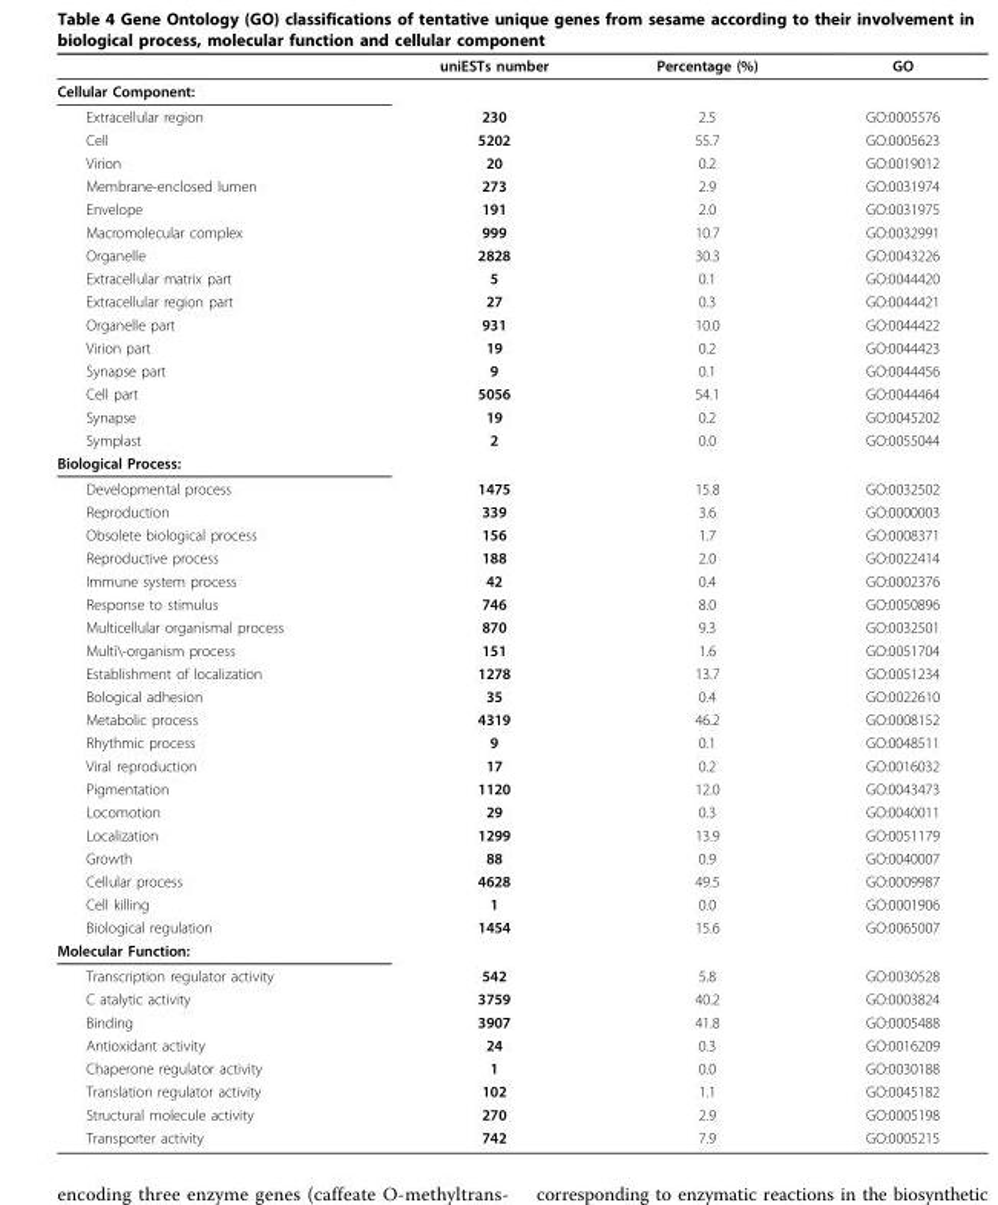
<table><thead><tr><td></td><td>uniESTs number</td><td>Percentage (%)</td><td>GO</td></tr></thead><tbody><tr><td colspan="4">Cellular Component:</td></tr><tr><td>Extracellular region</td><td>230</td><td>2.5</td><td>GO:0005576</td></tr><tr><td>Cell</td><td>5202</td><td>55.7</td><td>GO:0005623</td></tr><tr><td>Virion</td><td>20</td><td>0.2</td><td>GO:0019012</td></tr><tr><td>Membrane-enclosed lumen</td><td>273</td><td>2.9</td><td>GO:0031974</td></tr><tr><td>Envelope</td><td>191</td><td>2.0</td><td>GO:0031975</td></tr><tr><td>Macromolecular complex</td><td>999</td><td>10.7</td><td>GO:0032991</td></tr><tr><td>Organelle</td><td>2828</td><td>30.3</td><td>GO:0043226</td></tr><tr><td>Extracellular matrix part</td><td>5</td><td>0.1</td><td>GO:0044420</td></tr><tr><td>Extracellular region part</td><td>27</td><td>0.3</td><td>GO:0044421</td></tr><tr><td>Organelle part</td><td>931</td><td>10.0</td><td>GO:0044422</td></tr><tr><td>Virion part</td><td>19</td><td>0.2</td><td>GO:0044423</td></tr><tr><td>Synapse part</td><td>9</td><td>0.1</td><td>GO:0044456</td></tr><tr><td>Cell part</td><td>5056</td><td>54.1</td><td>GO:0044464</td></tr><tr><td>Synapse</td><td>19</td><td>0.2</td><td>GO:0045202</td></tr><tr><td>Symplast</td><td>2</td><td>0.0</td><td>GO:0055044</td></tr><tr><td colspan="4">Biological Process:</td></tr><tr><td>Developmental process</td><td>1475</td><td>15.8</td><td>GO:0032502</td></tr><tr><td>Reproduction</td><td>339</td><td>3.6</td><td>GO:0000003</td></tr><tr><td>Obsolete biological process</td><td>156</td><td>1.7</td><td>GO:0008371</td></tr><tr><td>Reproductive process</td><td>188</td><td>2.0</td><td>GO:0022414</td></tr><tr><td>Immune system process</td><td>42</td><td>0.4</td><td>GO:0002376</td></tr><tr><td>Response to stimulus</td><td>746</td><td>8.0</td><td>GO:0050896</td></tr><tr><td>Multicellular organismal process</td><td>870</td><td>9.3</td><td>GO:0032501</td></tr><tr><td>Multi\-organism process</td><td>151</td><td>1.6</td><td>GO:0051704</td></tr><tr><td>Establishment of localization</td><td>1278</td><td>13.7</td><td>GO:0051234</td></tr><tr><td>Bological adhesion</td><td>35</td><td>0.4</td><td>GO:0022610</td></tr><tr><td>Metabolic process</td><td>4319</td><td>46.2</td><td>GO:0008152</td></tr><tr><td>Rhythmic process</td><td>9</td><td>0.1</td><td>GO:0048511</td></tr><tr><td>Viral reproduction</td><td>17</td><td>0.2</td><td>GO:0016032</td></tr><tr><td>Pigmentation</td><td>1120</td><td>12.0</td><td>GO:0043473</td></tr><tr><td>Locomotion</td><td>29</td><td>0.3</td><td>GO:0040011</td></tr><tr><td>Localization</td><td>1299</td><td>13.9</td><td>GO:0051179</td></tr><tr><td>Growth</td><td>88</td><td>0.9</td><td>GO:0040007</td></tr><tr><td>Cellular process</td><td>4628</td><td>49.5</td><td>GO:0009987</td></tr><tr><td>Cell killing</td><td>1</td><td>0.0</td><td>GO:0001906</td></tr><tr><td>Biological regulation</td><td>1454</td><td>15.6</td><td>GO:0065007</td></tr><tr><td colspan="4">Molecular Function:</td></tr><tr><td>Transcription regulator activity</td><td>542</td><td>5.8</td><td>GO:0030528</td></tr><tr><td>C atalytic activity</td><td>3759</td><td>40.2</td><td>GO:0003824</td></tr><tr><td>Binding</td><td>3907</td><td>41.8</td><td>GO:0005488</td></tr><tr><td>Antioxidant activity</td><td>24</td><td>0.3</td><td>GO:0016209</td></tr><tr><td>Chaperone regulator activity</td><td>1</td><td>0.0</td><td>GO:0030188</td></tr><tr><td>Translation regulator activity</td><td>102</td><td>1.1</td><td>GO:0045182</td></tr><tr><td>Structural molecule activity</td><td>270</td><td>2.9</td><td>GO:0005198</td></tr><tr><td>Transporter activity</td><td>742</td><td>7.9</td><td>GO:0005215</td></tr></tbody></table>